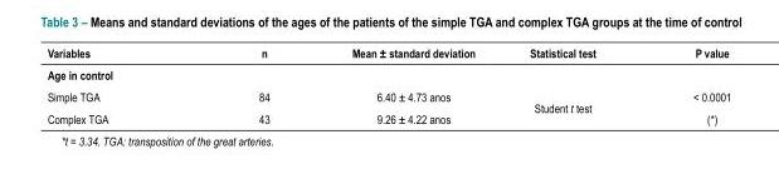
<table><thead><tr><td>Variables</td><td>n</td><td>Mean ± standard deviation</td><td>Statistical test</td><td>P value</td></tr></thead><tbody><tr><td colspan="5">Age in control</td></tr><tr><td>Simple TGA</td><td>84</td><td>6.40 ± 4.73 anos</td><td rowspan="2">Student t test</td><td>&lt; 0.0001</td></tr><tr><td>Complex TGA</td><td>43</td><td>9.26 ± 4.22 anos</td><td>(*)</td></tr></tbody></table>